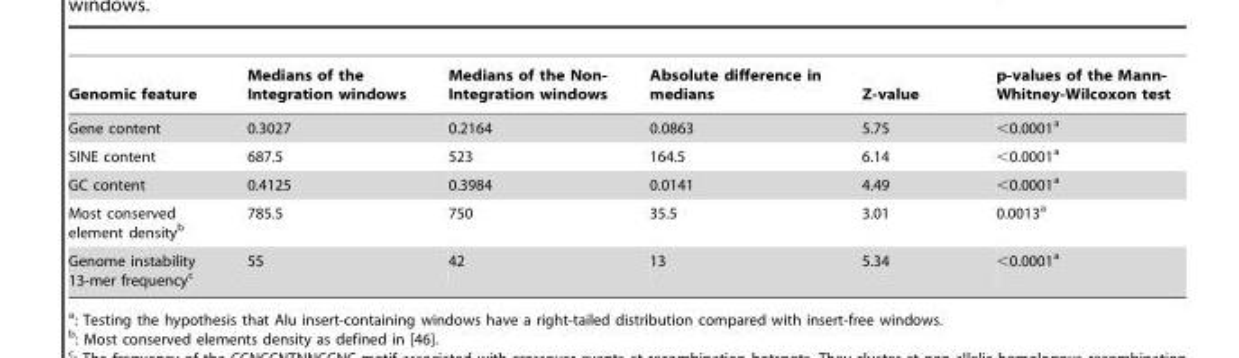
<table><thead><tr><td>Genomic feature</td><td>Medians of the Integration windows</td><td>Medians of the Non- Integration windows</td><td>Absolute difference in medians</td><td>Z-value</td><td>p-values of the Mann- Whitney-Wilcoxon test</td></tr></thead><tbody><tr><td>Gene content</td><td>0.3027</td><td>0.2164</td><td>0.0863</td><td>5.75</td><td>&lt;0.0001<sup>a</sup></td></tr><tr><td>SINE content</td><td>687.5</td><td>523</td><td>164.5</td><td>6.14</td><td>&lt;0.0001<sup>a</sup></td></tr><tr><td>GC content</td><td>0.4125</td><td>0.3984</td><td>0.0141</td><td>4.49</td><td>&lt;0.0001<sup>a</sup></td></tr><tr><td>Most conserved element density<sup>b</sup></td><td>785.5</td><td>750</td><td>35.5</td><td>3.01</td><td>0.0013<sup>a</sup></td></tr><tr><td>Genome instability 13-mer frequency<sup>c</sup></td><td>55</td><td>42</td><td>13</td><td>5.34</td><td>&lt;0.0001<sup>a</sup></td></tr></tbody></table>